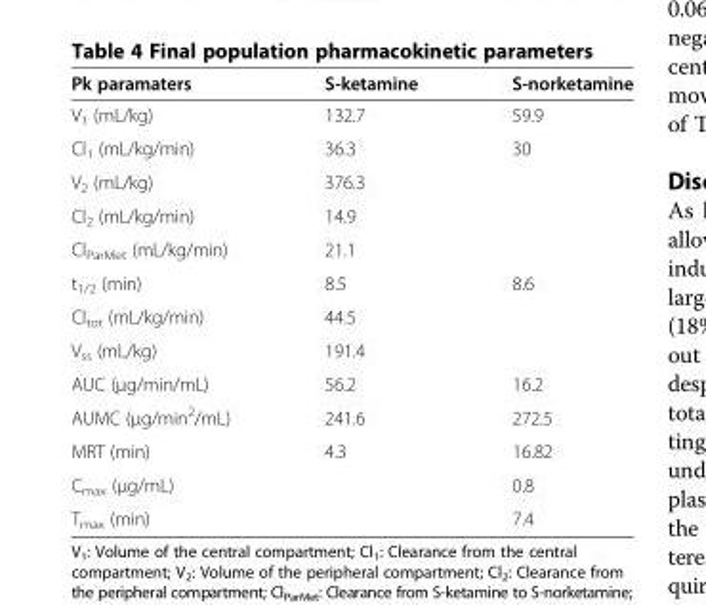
<table><thead><tr><td>Pk paramaters</td><td>S-ketamine</td><td>S-norketamine</td></tr></thead><tbody><tr><td>V<sub>1</sub> (mL/kg)</td><td>132.7</td><td>59.9</td></tr><tr><td>Cl<sub>1</sub> (mL/kg/min)</td><td>36.3</td><td>30</td></tr><tr><td>V<sub>2</sub> (mL/kg)</td><td>376.3</td><td></td></tr><tr><td>Cl<sub>2</sub> (mL/kg/min)</td><td>14.9</td><td></td></tr><tr><td>Cl<sub>ParMet</sub> (mL/kg/min)</td><td>21.1</td><td></td></tr><tr><td>t<sub>1/2</sub> (min)</td><td>8.5</td><td>8.6</td></tr><tr><td>Cl<sub>tot</sub> (mL/kg/min)</td><td>44.5</td><td></td></tr><tr><td>V<sub>ss</sub> (mL/kg)</td><td>191.4</td><td></td></tr><tr><td>AUC (μg/min/mL)</td><td>56.2</td><td>16.2</td></tr><tr><td>AUMC (μg/min<sup>2</sup>/mL)</td><td>241.6</td><td>272.5</td></tr><tr><td>MRT (min)</td><td>4.3</td><td>16.82</td></tr><tr><td>C<sub>max</sub> (μg/mL)</td><td></td><td>0.8</td></tr><tr><td>T<sub>max</sub> (min)</td><td></td><td>7.4</td></tr></tbody></table>